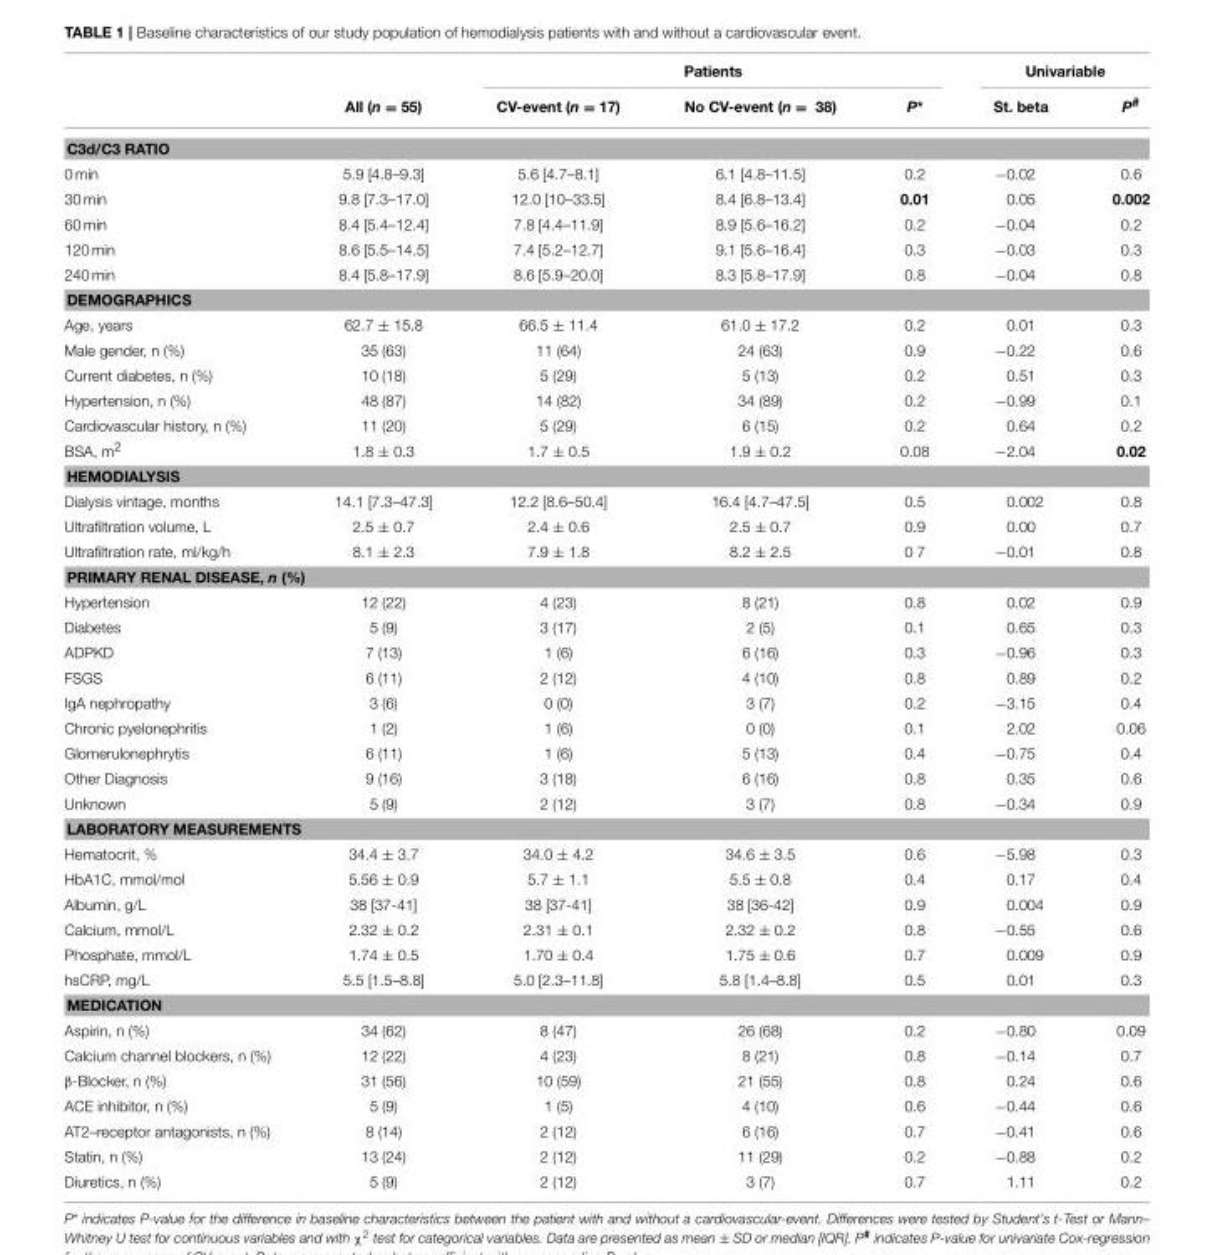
<table><thead><tr><td rowspan="2"></td><td rowspan="2">All (n = 55)</td><td colspan="3">Patients</td><td colspan="2">Univariable</td></tr><tr><td>CV-event (n = 17)</td><td>No CV-event (n = 38)</td><td>P*</td><td>St. beta</td><td>P<sup>#</sup></td></tr></thead><tbody><tr><td colspan="7">C3d/C3 RATIO</td></tr><tr><td>0 min</td><td>5.9 [4.8–9.3]</td><td>5.6 [4.7–8.1]</td><td>6.1 [4.8–11.5]</td><td>0.2</td><td>−0.02</td><td>0.6</td></tr><tr><td>30 min</td><td>9.8 [7.3–17.0]</td><td>12.0 [10–33.5]</td><td>8.4 [6.8–13.4]</td><td>0.01</td><td>0.05</td><td>0.002</td></tr><tr><td>60 min</td><td>8.4 [5.4–12.4]</td><td>7.8 [4.4–11.9]</td><td>8.9 [5.6–16.2]</td><td>0.2</td><td>−0.04</td><td>0.2</td></tr><tr><td>120 min</td><td>8.6 [5.5–14.5]</td><td>7.4 [5.2–12.7]</td><td>9.1 [5.6–16.4]</td><td>0.3</td><td>−0.03</td><td>0.3</td></tr><tr><td>240 min</td><td>8.4 [5.8–17.9]</td><td>8.6 [5.9–20.0]</td><td>8.3 [5.8–17.9]</td><td>0.8</td><td>−0.04</td><td>0.8</td></tr><tr><td colspan="7">DEMOGRAPHICS</td></tr><tr><td>Age, years</td><td>62.7 ± 15.8</td><td>66.5 ± 11.4</td><td>61.0 ± 17.2</td><td>0.2</td><td>0.01</td><td>0.3</td></tr><tr><td>Male gender, n (%)</td><td>35 (63)</td><td>11 (64)</td><td>24 (63)</td><td>0.9</td><td>−0.22</td><td>0.6</td></tr><tr><td>Current diabetes, n (%)</td><td>10 (18)</td><td>5 (29)</td><td>5 (13)</td><td>0.2</td><td>0.51</td><td>0.3</td></tr><tr><td>Hypertension, n (%)</td><td>48 (87)</td><td>14 (82)</td><td>34 (89)</td><td>0.2</td><td>−0.99</td><td>0.1</td></tr><tr><td>Cardiovascular history, n (%)</td><td>11 (20)</td><td>5 (29)</td><td>6 (15)</td><td>0.2</td><td>0.64</td><td>0.2</td></tr><tr><td>BSA, m<sup>2</sup></td><td>1.8 ± 0.3</td><td>1.7 ± 0.5</td><td>1.9 ± 0.2</td><td>0.08</td><td>−2.04</td><td>0.02</td></tr><tr><td colspan="7">HEMODIALYSIS</td></tr><tr><td>Dialysis vintage, months</td><td>14.1 [7.3–47.3]</td><td>12.2 [8.6–50.4]</td><td>16.4 [4.7–47.5]</td><td>0.5</td><td>0.002</td><td>0.8</td></tr><tr><td>Ultrafiltration volume, L</td><td>2.5 ± 0.7</td><td>2.4 ± 0.6</td><td>2.5 ± 0.7</td><td>0.9</td><td>0.00</td><td>0.7</td></tr><tr><td>Ultrafiltration rate, ml/kg/h</td><td>8.1 ± 2.3</td><td>7.9 ± 1.8</td><td>8.2 ± 2.5</td><td>0 7</td><td>−0.01</td><td>0.8</td></tr><tr><td colspan="7">PRIMARY RENAL DISEASE, n (%)</td></tr><tr><td>Hypertension</td><td>12 (22)</td><td>4 (23)</td><td>8 (21)</td><td>0.8</td><td>0.02</td><td>0.9</td></tr><tr><td>Diabetes</td><td>5 (9)</td><td>3 (17)</td><td>2 (5)</td><td>0.1</td><td>0.65</td><td>0.3</td></tr><tr><td>ADPKD</td><td>7 (13)</td><td>1 (6)</td><td>6 (16)</td><td>0.3</td><td>−0.96</td><td>0.3</td></tr><tr><td>FSGS</td><td>6 (11)</td><td>2 (12)</td><td>4 (10)</td><td>0.8</td><td>0.89</td><td>0.2</td></tr><tr><td>IgA nephropathy</td><td>3 (6)</td><td>0 (0)</td><td>3 (7)</td><td>0.2</td><td>−3.15</td><td>0.4</td></tr><tr><td>Chronic pyelonephritis</td><td>1 (2)</td><td>1 (6)</td><td>0 (0)</td><td>0.1</td><td>2.02</td><td>0.06</td></tr><tr><td>Glomerulonephrytis</td><td>6 (11)</td><td>1 (6)</td><td>5 (13)</td><td>0.4</td><td>−0.75</td><td>0.4</td></tr><tr><td>Other Diagnosis</td><td>9 (16)</td><td>3 (18)</td><td>6 (16)</td><td>0.8</td><td>0.35</td><td>0.6</td></tr><tr><td>Unknown</td><td>5 (9)</td><td>2 (12)</td><td>3 (7)</td><td>0.8</td><td>−0.34</td><td>0.9</td></tr><tr><td colspan="7">LABORATORY MEASUREMENTS</td></tr><tr><td>Hematocrit, %</td><td>34.4 ± 3.7</td><td>34.0 ± 4.2</td><td>34.6 ± 3.5</td><td>0.6</td><td>−5.98</td><td>0.3</td></tr><tr><td>HbA1C, mmol/mol</td><td>5.56 ± 0.9</td><td>5.7 ± 1.1</td><td>5.5 ± 0.8</td><td>0.4</td><td>0.17</td><td>0.4</td></tr><tr><td>Albumin, g/L</td><td>38 [37-41]</td><td>38 [37-41]</td><td>38 [36-42]</td><td>0.9</td><td>0.004</td><td>0.9</td></tr><tr><td>Calcium, mmol/L</td><td>2.32 ± 0.2</td><td>2.31 ± 0.1</td><td>2.32 ± 0.2</td><td>0.8</td><td>−0.55</td><td>0.6</td></tr><tr><td>Phosphate, mmol/L</td><td>1.74 ± 0.5</td><td>1.70 ± 0.4</td><td>1.75 ± 0.6</td><td>0.7</td><td>0.009</td><td>0.9</td></tr><tr><td>hsCRP, mg/L</td><td>5.5 [1.5–8.8]</td><td>5.0 [2.3–11.8]</td><td>5.8 [1.4–8.8]</td><td>0.5</td><td>0.01</td><td>0.3</td></tr><tr><td colspan="7">MEDICATION</td></tr><tr><td>Aspirin, n (%)</td><td>34 (62)</td><td>8 (47)</td><td>26 (68)</td><td>0.2</td><td>−0.80</td><td>0.09</td></tr><tr><td>Calcium channel blockers, n (%)</td><td>12 (22)</td><td>4 (23)</td><td>8 (21)</td><td>0.8</td><td>−0.14</td><td>0.7</td></tr><tr><td>β-Blocker, n (%)</td><td>31 (56)</td><td>10 (59)</td><td>21 (55)</td><td>0.8</td><td>0.24</td><td>0.6</td></tr><tr><td>ACE inhibitor, n (%)</td><td>5 (9)</td><td>1 (5)</td><td>4 (10)</td><td>0.6</td><td>−0.44</td><td>0.6</td></tr><tr><td>AT2–receptor antagonists, n (%)</td><td>8 (14)</td><td>2 (12)</td><td>6 (16)</td><td>0.7</td><td>−0.41</td><td>0.6</td></tr><tr><td>Statin, n (%)</td><td>13 (24)</td><td>2 (12)</td><td>11 (29)</td><td>0.2</td><td>−0.88</td><td>0.2</td></tr><tr><td>Diuretics, n (%)</td><td>5 (9)</td><td>2 (12)</td><td>3 (7)</td><td>0.7</td><td>1.11</td><td>0.2</td></tr></tbody></table>